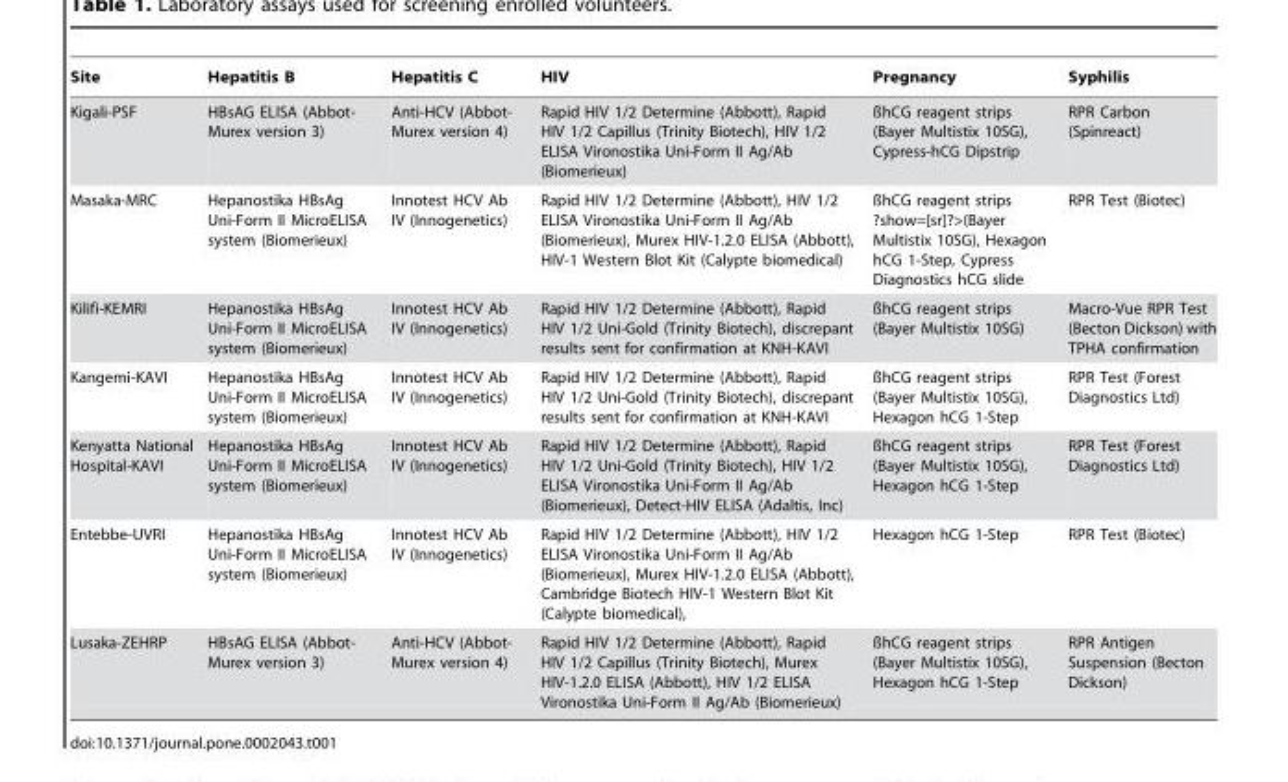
<table><thead><tr><td>Site</td><td>Hepatitis B</td><td>Hepatitis C</td><td>HIV</td><td>Pregnancy</td><td>Syphilis</td></tr></thead><tbody><tr><td>Kigali-PSF</td><td>HBsAG ELISA (Abbot- Murex version 3)</td><td>Anti-HCV (Abbot- Murex version 4)</td><td>Rapid HIV 1/2 Determine (Abbott), Rapid HIV 1/2 Capillus (Trinity Biotech), HIV 1/2 ELISA Vironostika Uni-Form II Ag/Ab (Biomerieux)</td><td>ßhCG reagent strips (Bayer Multistix 10SG), Cypress-hCG Dipstrip</td><td>RPR Carbon (Spinreact)</td></tr><tr><td>Masaka-MRC</td><td>Hepanostika HBsAg Uni-Form II MicroELISA system (Biomerieux)</td><td>Innotest HCV Ab IV (Innogenetics)</td><td>Rapid HIV 1/2 Determine (Abbott), HIV 1/2 ELISA Vironostika Uni-Form II Ag/Ab (Biomerieux), Murex HIV-1.2.0 ELISA (Abbott), HIV-1 Western Blot Kit (Calypte biomedical)</td><td>ßhCG reagent strips ?show=[sr]?&gt;(Bayer Multistix 10SG), Hexagon hCG 1-Step, Cypress Diagnostics hCG slide</td><td>RPR Test (Biotec)</td></tr><tr><td>Kilifi-KEMRI</td><td>Hepanostika HBsAg Uni-Form II MicroELISA system (Biomerieux)</td><td>Innotest HCV Ab IV (Innogenetics)</td><td>Rapid HIV 1/2 Determine (Abbott), Rapid HIV 1/2 Uni-Gold (Trinity Biotech), discrepant results sent for confirmation at KNH-KAVI</td><td>ßhCG reagent strips (Bayer Multistix 10SG)</td><td>Macro-Vue RPR Test (Becton Dickson) with TPHA confirmation</td></tr><tr><td>Kangemi-KAVI</td><td>Hepanostika HBsAg Uni-Form II MicroELISA system (Biomerieux)</td><td>Innotest HCV Ab IV (Innogenetics)</td><td>Rapid HIV 1/2 Determine (Abbott), Rapid HIV 1/2 Uni-Gold (Trinity Biotech), discrepant results sent for confirmation at KNH-KAVI</td><td>ßhCG reagent strips (Bayer Multistix 10SG), Hexagon hCG 1-Step</td><td>RPR Test (Forest Diagnostics Ltd)</td></tr><tr><td>Kenyatta National Hospital-KAVI</td><td>Hepanostika HBsAg Uni-Form II MicroELISA system (Biomerieux)</td><td>Innotest HCV Ab IV (Innogenetics)</td><td>Rapid HIV 1/2 Determine (Abbott), Rapid HIV 1/2 Uni-Gold (Trinity Biotech), HIV 1/2 ELISA Vironostika Uni-Form II Ag/Ab (Biomerieux), Detect-HIV ELISA (Adaltis, Inc)</td><td>ßhCG reagent strips (Bayer Multistix 10SG), Hexagon hCG 1-Step</td><td>RPR Test (Forest Diagnostics Ltd)</td></tr><tr><td>Entebbe-UVRI</td><td>Hepanostika HBsAg Uni-Form II MicroELISA system (Biomerieux)</td><td>Innotest HCV Ab IV (Innogenetics)</td><td>Rapid HIV 1/2 Determine (Abbott), HIV 1/2 ELISA Vironostika Uni-Form II Ag/Ab (Biomerieux), Murex HIV-1.2.0 ELISA (Abbott), Cambridge Biotech HIV-1 Western Blot Kit (Calypte biomedical),</td><td>Hexagon hCG 1-Step</td><td>RPR Test (Biotec)</td></tr><tr><td>Lusaka-ZEHRP</td><td>HBsAG ELISA (Abbot- Murex version 3)</td><td>Anti-HCV (Abbot- Murex version 4)</td><td>Rapid HIV 1/2 Determine (Abbott), Rapid HIV 1/2 Capillus (Trinity Biotech), Murex HIV-1.2.0 ELISA (Abbott), HIV 1/2 ELISA Vironostika Uni-Form II Ag/Ab (Biomerieux)</td><td>ßhCG reagent strips (Bayer Multistix 10SG), Hexagon hCG 1-Step</td><td>RPR Antigen Suspension (Becton Dickson)</td></tr></tbody></table>